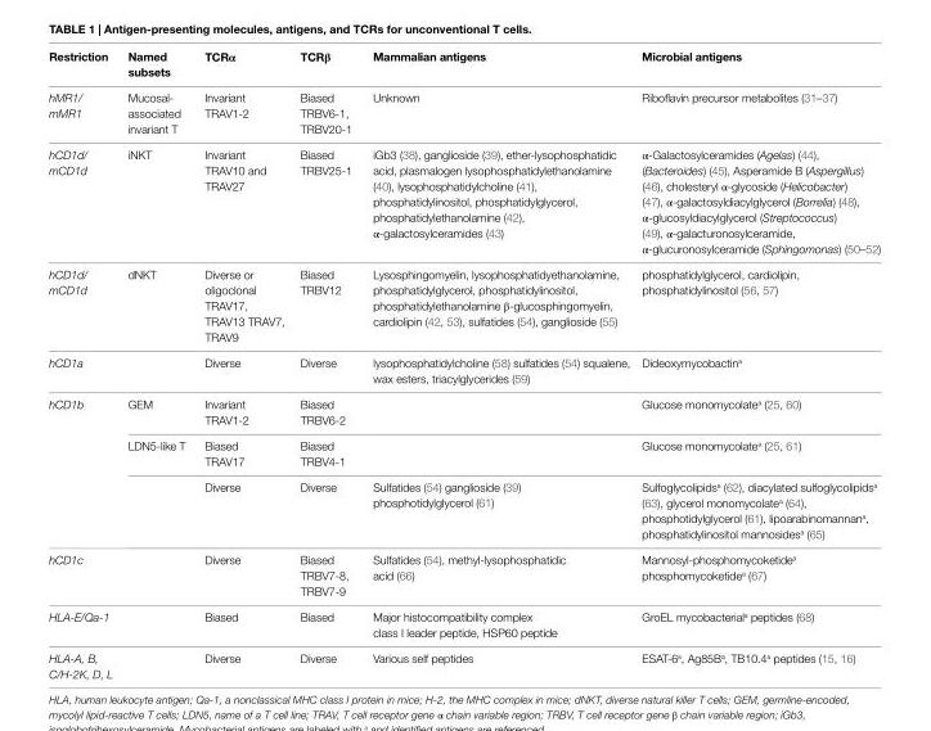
<table><thead><tr><td>Restriction</td><td>Named subsets</td><td>TCRα</td><td>TCRβ</td><td>Mammalian antigens</td><td>Microbial antigens</td></tr></thead><tbody><tr><td>hMR1/ mMR1</td><td>Mucosal- associated invariant T</td><td>Invariant TRAV1-2</td><td>Biased TRBV6-1, TRBV20-1</td><td>Unknown</td><td>Riboflavin precursor metabolites (31–37)</td></tr><tr><td>hCD1d/ mCD1d</td><td>iNKT</td><td>Invariant TRAV10 and TRAV27</td><td>Biased TRBV25-1</td><td>iGb3 (38), ganglioside (39), ether-lysophosphatidic acid, plasmalogen lysophosphatidylethanolamine (40), lysophosphatidylcholine (41), phosphatidylinositol, phosphatidylglycerol, phosphatidylethanolamine (42), α-galactosylceramides (43)</td><td>α-Galactosylceramides (Agelas) (44), (Bacteroides) (45), Asperamide B (Aspergillus) (46), cholesteryl α-glycoside (Helicobacter) (47), α-galactosyldiacylglycerol (Borrelia) (48), α-glucosyldiacylglycerol (Streptococcus) (49), α-galacturonosylceramide, α-glucuronosylceramide (Sphingomonas) (50–52)</td></tr><tr><td>hCD1d/ mCD1d</td><td>dNKT</td><td>Diverse or oligoclonal TRAV17, TRAV13 TRAV7, TRAV9</td><td>Biased TRBV12</td><td>Lysosphingomyelin, lysophosphatidyethanolamine, phosphatidylglycerol, phosphatidylinositol, phosphatidylethanolamine β-glucosphingomyelin, cardiolipin (42, 53), sulfatides (54), ganglioside (55)</td><td>phosphatidylglycerol, cardiolipin, phosphatidylinositol (56, 57)</td></tr><tr><td>hCD1a</td><td></td><td>Diverse</td><td>Diverse</td><td>lysophosphatidylcholine (58) sulfatides (54) squalene, wax esters, triacylglycerides (59)</td><td>Dideoxymycobactin<sup>a</sup></td></tr><tr><td rowspan="3">hCD1b</td><td>GEM</td><td>Invariant TRAV1-2</td><td>Biased TRBV6-2</td><td></td><td>Glucose monomycolate<sup>a</sup> (25, 60)</td></tr><tr><td>LDN5-like T</td><td>Biased TRAV17</td><td>Biased TRBV4-1</td><td></td><td>Glucose monomycolate<sup>a</sup> (25, 61)</td></tr><tr><td></td><td>Diverse</td><td>Diverse</td><td>Sulfatides (54) ganglioside (39) phosphotidylglycerol (61)</td><td>Sulfoglycolipids<sup>a</sup> (62), diacylated sulfoglycolipids<sup>a</sup> (63), glycerol monomycolate<sup>a</sup> (64), phosphotidylglycerol (61), lipoarabinomannan<sup>a</sup>, phosphatidylinositol mannosides<sup>a</sup> (65)</td></tr><tr><td>hCD1c</td><td></td><td>Diverse</td><td>Biased TRBV7-8, TRBV7-9</td><td>Sulfatides (54), methyl-lysophosphatidic acid (66)</td><td>Mannosyl-phosphomycoketide<sup>a</sup> phosphomycoketide<sup>a</sup> (67)</td></tr><tr><td>HLA-E/Qa-1</td><td></td><td>Biased</td><td>Biased</td><td>Major histocompatibility complex class I leader peptide, HSP60 peptide</td><td>GroEL mycobacterial<sup>a</sup> peptides (68)</td></tr><tr><td>HLA-A, B, C/H-2K, D, L</td><td></td><td>Diverse</td><td>Diverse</td><td>Various self peptides</td><td>ESAT-6<sup>a</sup>, Ag85B<sup>a</sup>, TB10.4<sup>a</sup> peptides (15, 16)</td></tr></tbody></table>